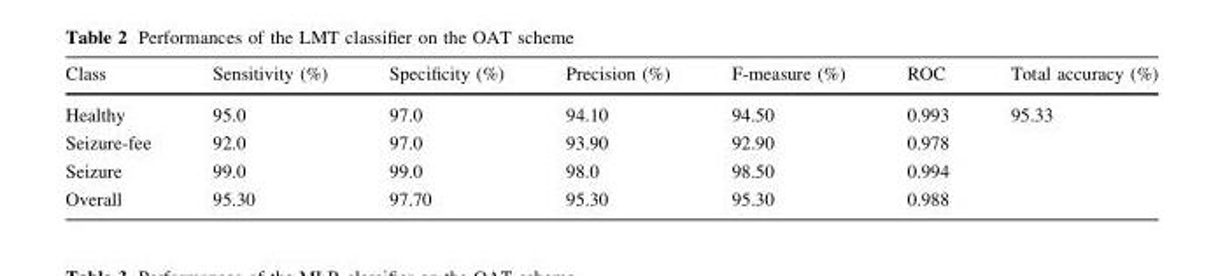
<table><thead><tr><td>Class</td><td>Sensitivity (%)</td><td>Specificity (%)</td><td>Precision (%)</td><td>F-measure (%)</td><td>ROC</td><td>Total accuracy (%)</td></tr></thead><tbody><tr><td>Healthy</td><td>95.0</td><td>97.0</td><td>94.10</td><td>94.50</td><td>0.993</td><td rowspan="4">95.33</td></tr><tr><td>Seizure-fee</td><td>92.0</td><td>97.0</td><td>93.90</td><td>92.90</td><td>0.978</td></tr><tr><td>Seizure</td><td>99.0</td><td>99.0</td><td>98.0</td><td>98.50</td><td>0.994</td></tr><tr><td>Overall</td><td>95.30</td><td>97.70</td><td>95.30</td><td>95.30</td><td>0.988</td></tr></tbody></table>